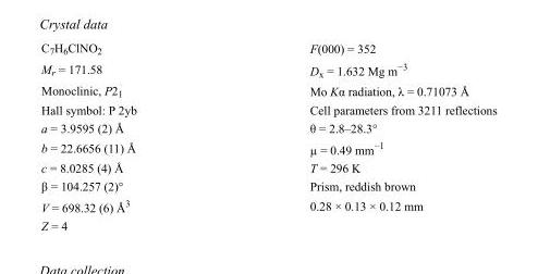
<table><tbody><tr><td>C<sub>7</sub>H<sub>6</sub>ClNO<sub>2</sub></td><td>F(000) = 352</td></tr><tr><td>M<sub>r</sub> = 171.58</td><td>D<sub>x</sub> = 1.632 Mg m<sup>−3</sup></td></tr><tr><td>Monoclinic, P2<sub>1</sub></td><td>Mo Kα radiation, λ = 0.71073 Å</td></tr><tr><td>Hall symbol: P 2yb</td><td>Cell parameters from 3211 reflections</td></tr><tr><td>a = 3.9595 (2) Å</td><td>θ = 2.8–28.3°</td></tr><tr><td>b = 22.6656 (11) Å</td><td>µ = 0.49 mm<sup>−1</sup></td></tr><tr><td>c = 8.0285 (4) Å</td><td>T = 296 K</td></tr><tr><td>β = 104.257 (2)°</td><td>Prism, reddish brown</td></tr><tr><td>V = 698.32 (6) Å<sup>3</sup></td><td>0.28 × 0.13 × 0.12 mm</td></tr><tr><td>Z = 4</td><td></td></tr></tbody></table>